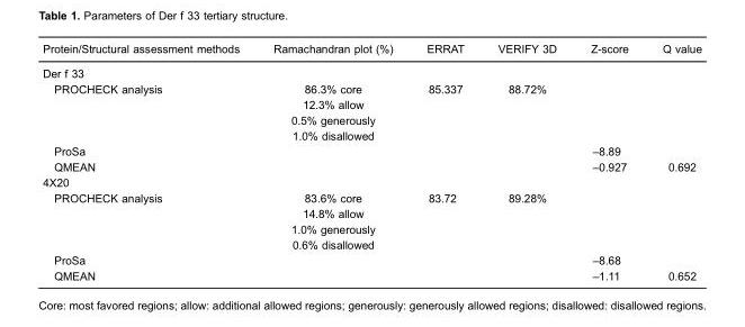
<table><thead><tr><td>Protein/Structural assessment methods</td><td>Ramachandran plot (%)</td><td>ERRAT</td><td>VERIFY 3D</td><td>Z-score</td><td>Q value</td></tr></thead><tbody><tr><td colspan="6">Der f 33</td></tr><tr><td rowspan="4">PROCHECK analysis</td><td>86.3% core</td><td>85.337</td><td>88.72%</td><td></td><td></td></tr><tr><td>12.3% allow</td><td></td><td></td><td></td><td></td></tr><tr><td>0.5% generously</td><td></td><td></td><td></td><td></td></tr><tr><td>1.0% disallowed</td><td></td><td></td><td></td><td></td></tr><tr><td>ProSa</td><td></td><td></td><td></td><td>–8.89</td><td></td></tr><tr><td>QMEAN</td><td></td><td></td><td></td><td>–0.927</td><td>0.692</td></tr><tr><td colspan="6">4X20</td></tr><tr><td rowspan="4">PROCHECK analysis</td><td>83.6% core</td><td>83.72</td><td>89.28%</td><td></td><td></td></tr><tr><td>14.8% allow</td><td></td><td></td><td></td><td></td></tr><tr><td>1.0% generously</td><td></td><td></td><td></td><td></td></tr><tr><td>0.6% disallowed</td><td></td><td></td><td></td><td></td></tr><tr><td>ProSa</td><td></td><td></td><td></td><td>–8.68</td><td></td></tr><tr><td>QMEAN</td><td></td><td></td><td></td><td>–1.11</td><td>0.652</td></tr></tbody></table>